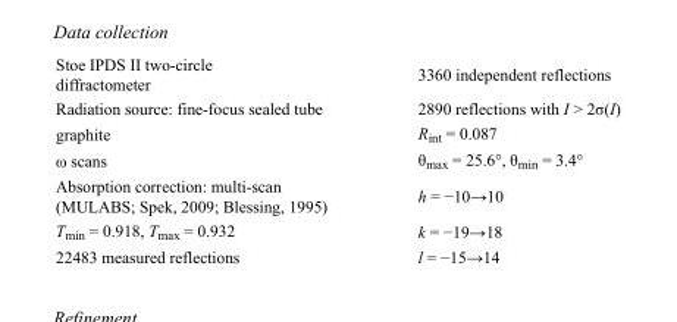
<table><tbody><tr><td>Stoe IPDS II two-circle diffractometer</td><td>3360 independent reflections</td></tr><tr><td>Radiation source: fine-focus sealed tube</td><td>2890 reflections with I &gt; 2σ(I)</td></tr><tr><td>graphite</td><td>R<sub>int</sub> = 0.087</td></tr><tr><td>ω scans</td><td>θ<sub>max</sub> = 25.6°, θ<sub>min</sub> = 3.4°</td></tr><tr><td>Absorption correction: multi-scan (MULABS; Spek, 2009; Blessing, 1995)</td><td>h = −10→10</td></tr><tr><td>T<sub>min</sub> = 0.918, T<sub>max</sub> = 0.932</td><td>k = −19→18</td></tr><tr><td>22483 measured reflections</td><td>l = −15→14</td></tr></tbody></table>